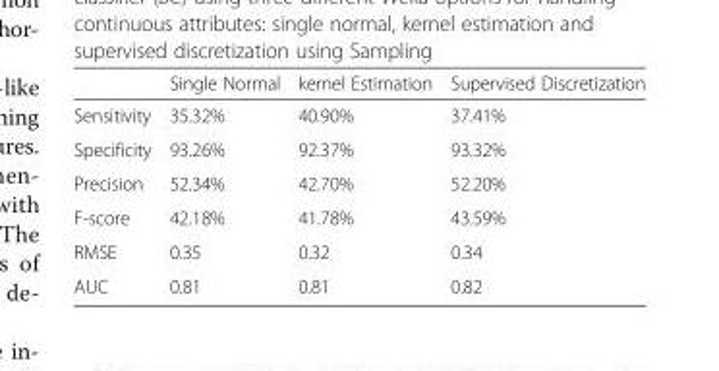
<table><thead><tr><td></td><td>Single Normal</td><td>kernel Estimation</td><td>Supervised Discretization</td></tr></thead><tbody><tr><td>Sensitivity</td><td>35.32%</td><td>40.90%</td><td>37.41%</td></tr><tr><td>Specificity</td><td>93.26%</td><td>92.37%</td><td>93.32%</td></tr><tr><td>Precision</td><td>52.34%</td><td>42.70%</td><td>52.20%</td></tr><tr><td>F-score</td><td>42.18%</td><td>41.78%</td><td>43.59%</td></tr><tr><td>RMSE</td><td>0.35</td><td>0.32</td><td>0.34</td></tr><tr><td>AUC</td><td>0.81</td><td>0.81</td><td>0.82</td></tr></tbody></table>